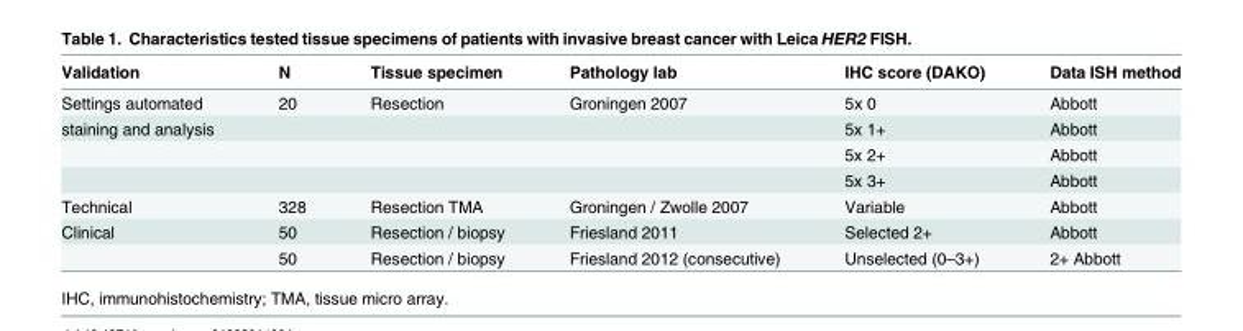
<table><thead><tr><td>Validation</td><td>N</td><td>Tissue specimen</td><td>Pathology lab</td><td>IHC score (DAKO)</td><td>Data ISH method</td></tr></thead><tbody><tr><td>Settings automated</td><td>20</td><td>Resection</td><td>Groningen 2007</td><td>5x 0</td><td>Abbott</td></tr><tr><td rowspan="3">staining and analysis</td><td></td><td></td><td></td><td>5x 1+</td><td>Abbott</td></tr><tr><td></td><td></td><td></td><td>5x 2+</td><td>Abbott</td></tr><tr><td></td><td></td><td></td><td>5x 3+</td><td>Abbott</td></tr><tr><td>Technical</td><td>328</td><td>Resection TMA</td><td>Groningen / Zwolle 2007</td><td>Variable</td><td>Abbott</td></tr><tr><td rowspan="2">Clinical</td><td>50</td><td>Resection / biopsy</td><td>Friesland 2011</td><td>Selected 2+</td><td>Abbott</td></tr><tr><td>50</td><td>Resection / biopsy</td><td>Friesland 2012 (consecutive)</td><td>Unselected (0–3+)</td><td>2+ Abbott</td></tr></tbody></table>